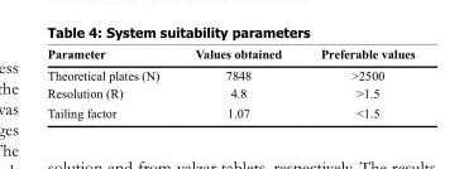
<table><thead><tr><td>Parameter</td><td>Values obtained</td><td>Preferable values</td></tr></thead><tbody><tr><td>Theoretical plates (N)</td><td>7848</td><td>&gt;2500</td></tr><tr><td>Resolution (R)</td><td>4.8</td><td>&gt;1.5</td></tr><tr><td>Tailing factor</td><td>1.07</td><td>&lt;1.5</td></tr></tbody></table>